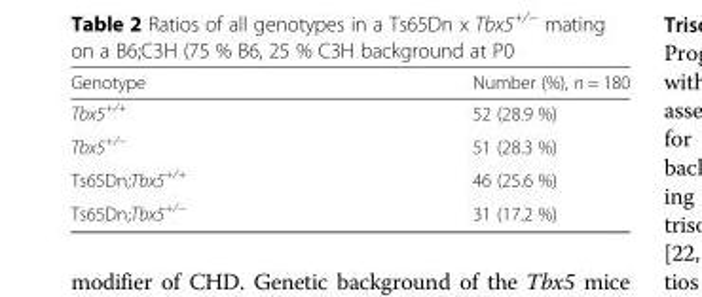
<table><thead><tr><td>Genotype</td><td>Number (%), n = 180</td></tr></thead><tbody><tr><td>Tbx5<sup>+/+</sup></td><td>52 (28.9 %)</td></tr><tr><td>Tbx5<sup>+/−</sup></td><td>51 (28.3 %)</td></tr><tr><td>Ts65Dn;Tbx5<sup>+/+</sup></td><td>46 (25.6 %)</td></tr><tr><td>Ts65Dn;Tbx5<sup>+/−</sup></td><td>31 (17.2 %)</td></tr></tbody></table>